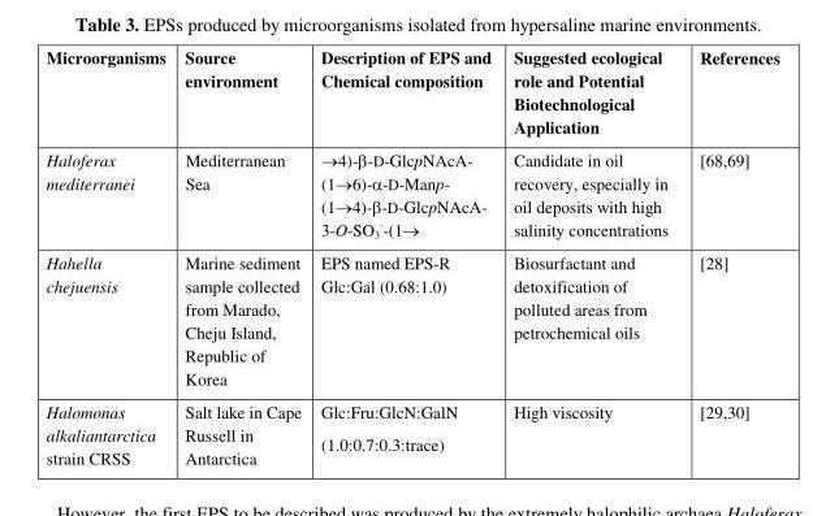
<table><thead><tr><td>Microorganisms</td><td>Source environment</td><td>Description of EPS and Chemical composition</td><td>Suggested ecological role and Potential Biotechnological Application</td><td>References</td></tr></thead><tbody><tr><td>Haloferax mediterranei</td><td>Mediterranean Sea</td><td>→4)-β-D-GlcpNAcA- (1→6)-α-D-Manp- (1→4)-β-D-GlcpNAcA- 3-O-SO<sub>3</sub> --(1→</td><td>Candidate in oil recovery, especially in oil deposits with high salinity concentrations</td><td>[68,69]</td></tr><tr><td>Hahella chejuensis</td><td>Marine sediment sample collected from Marado, Cheju Island, Republic of Korea</td><td>EPS named EPS-R Glc:Gal (0.68:1.0)</td><td>Biosurfactant and detoxification of polluted areas from petrochemical oils</td><td>[28]</td></tr><tr><td>Halomonas alkaliantarctica strain CRSS</td><td>Salt lake in Cape Russell in Antarctica</td><td>Glc:Fru:GlcN:GalN (1.0:0.7:0.3:trace)</td><td>High viscosity</td><td>[29,30]</td></tr></tbody></table>